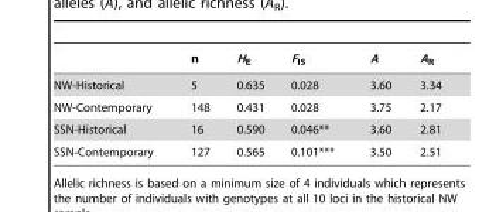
<table><thead><tr><td></td><td>n</td><td>H<sub>E</sub></td><td>F<sub>IS</sub></td><td>A</td><td>A<sub>R</sub></td></tr></thead><tbody><tr><td>NW-Historical</td><td>5</td><td>0.635</td><td>0.028</td><td>3.60</td><td>3.34</td></tr><tr><td>NW-Contemporary</td><td>148</td><td>0.431</td><td>0.028</td><td>3.75</td><td>2.17</td></tr><tr><td>SSN-Historical</td><td>16</td><td>0.590</td><td>0.046**</td><td>3.60</td><td>2.81</td></tr><tr><td>SSN-Contemporary</td><td>127</td><td>0.565</td><td>0.101***</td><td>3.50</td><td>2.51</td></tr></tbody></table>